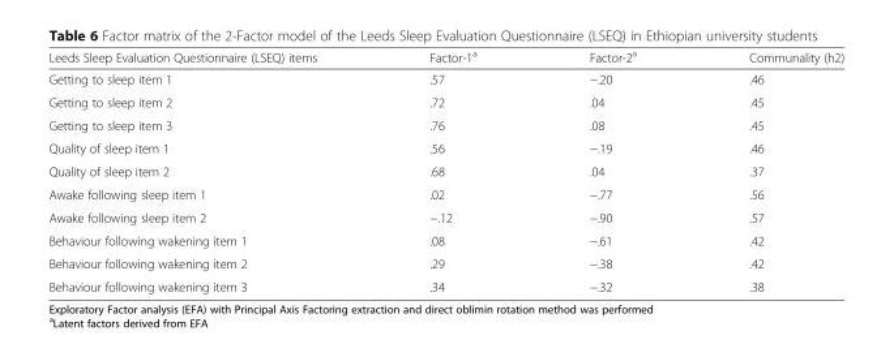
<table><thead><tr><td>Leeds Sleep Evaluation Questionnaire (LSEQ) items</td><td>Factor-1<sup>a</sup></td><td>Factor-2<sup>a</sup></td><td>Communality (h2)</td></tr></thead><tbody><tr><td>Getting to sleep item 1</td><td>.57</td><td>−.20</td><td>.46</td></tr><tr><td>Getting to sleep item 2</td><td>.72</td><td>.04</td><td>.45</td></tr><tr><td>Getting to sleep item 3</td><td>.76</td><td>.08</td><td>.45</td></tr><tr><td>Quality of sleep item 1</td><td>.56</td><td>−.19</td><td>.46</td></tr><tr><td>Quality of sleep item 2</td><td>.68</td><td>.04</td><td>.37</td></tr><tr><td>Awake following sleep item 1</td><td>.02</td><td>−.77</td><td>.56</td></tr><tr><td>Awake following sleep item 2</td><td>−.12</td><td>−.90</td><td>.57</td></tr><tr><td>Behaviour following wakening item 1</td><td>.08</td><td>−.61</td><td>.42</td></tr><tr><td>Behaviour following wakening item 2</td><td>.29</td><td>−.38</td><td>.42</td></tr><tr><td>Behaviour following wakening item 3</td><td>.34</td><td>−.32</td><td>.38</td></tr></tbody></table>